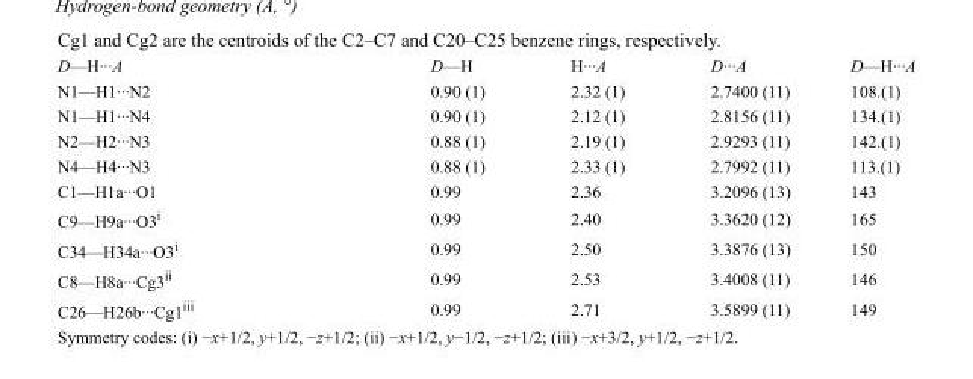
<table><tbody><tr><td>D—H···A</td><td>D—H</td><td>H···A</td><td>D···A</td><td>D—H···A</td></tr><tr><td>N1—H1···N2</td><td>0.90 (1)</td><td>2.32 (1)</td><td>2.7400 (11)</td><td>108.(1)</td></tr><tr><td>N1—H1···N4</td><td>0.90 (1)</td><td>2.12 (1)</td><td>2.8156 (11)</td><td>134.(1)</td></tr><tr><td>N2—H2···N3</td><td>0.88 (1)</td><td>2.19 (1)</td><td>2.9293 (11)</td><td>142.(1)</td></tr><tr><td>N4—H4···N3</td><td>0.88 (1)</td><td>2.33 (1)</td><td>2.7992 (11)</td><td>113.(1)</td></tr><tr><td>C1—H1a···O1</td><td>0.99</td><td>2.36</td><td>3.2096 (13)</td><td>143</td></tr><tr><td>C9—H9a···O3<sup>i</sup></td><td>0.99</td><td>2.40</td><td>3.3620 (12)</td><td>165</td></tr><tr><td>C34—H34a···O3<sup>i</sup></td><td>0.99</td><td>2.50</td><td>3.3876 (13)</td><td>150</td></tr><tr><td>C8—H8a···Cg3<sup>ii</sup></td><td>0.99</td><td>2.53</td><td>3.4008 (11)</td><td>146</td></tr><tr><td>C26—H26b···Cg1<sup>iii</sup></td><td>0.99</td><td>2.71</td><td>3.5899 (11)</td><td>149</td></tr></tbody></table>